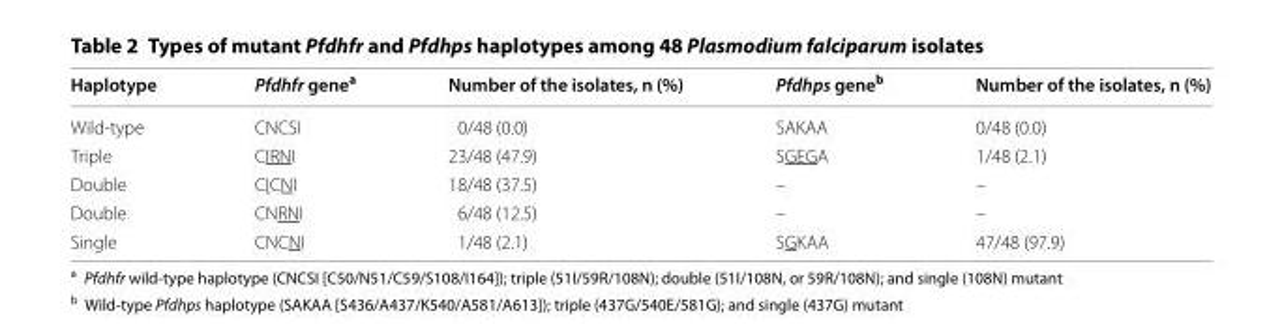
<table><thead><tr><td>Haplotype</td><td>Pfdhfr gene<sup>a</sup></td><td>Number of the isolates, n (%)</td><td>Pfdhps gene<sup>b</sup></td><td>Number of the isolates, n (%)</td></tr></thead><tbody><tr><td>Wild‑type</td><td>CNCSI</td><td>0/48 (0.0)</td><td>SAKAA</td><td>0/48 (0.0)</td></tr><tr><td>Triple</td><td>CIRNI</td><td>23/48 (47.9)</td><td>SGEGA</td><td>1/48 (2.1)</td></tr><tr><td>Double</td><td>CICNI</td><td>18/48 (37.5)</td><td>–</td><td>–</td></tr><tr><td>Double</td><td>CNRNI</td><td>6/48 (12.5)</td><td>–</td><td>–</td></tr><tr><td>Single</td><td>CNCNI</td><td>1/48 (2.1)</td><td>SGKAA</td><td>47/48 (97.9)</td></tr></tbody></table>